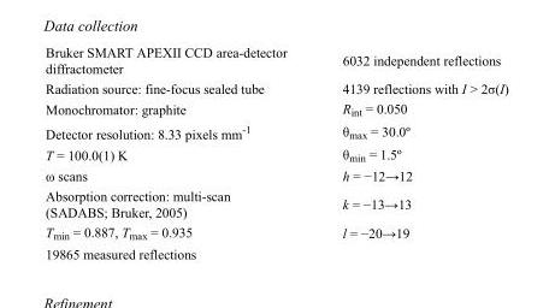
<table><tbody><tr><td>Bruker SMART APEXII CCD area-detector diffractometer</td><td>6032 independent reflections</td></tr><tr><td>Radiation source: fine-focus sealed tube</td><td>4139 reflections with I &gt; 2σ(I)</td></tr><tr><td>Monochromator: graphite</td><td>R<sub>int</sub> = 0.050</td></tr><tr><td>Detector resolution: 8.33 pixels mm<sup>-1</sup></td><td>θ<sub>max</sub> = 30.0º</td></tr><tr><td>T = 100.0(1) K</td><td>θ<sub>min</sub> = 1.5º</td></tr><tr><td>ω scans</td><td>h = −12→12</td></tr><tr><td>Absorption correction: multi-scan (SADABS; Bruker, 2005)</td><td>k = −13→13</td></tr><tr><td>T<sub>min</sub> = 0.887, T<sub>max</sub> = 0.935</td><td>l = −20→19</td></tr><tr><td>19865 measured reflections</td><td></td></tr></tbody></table>